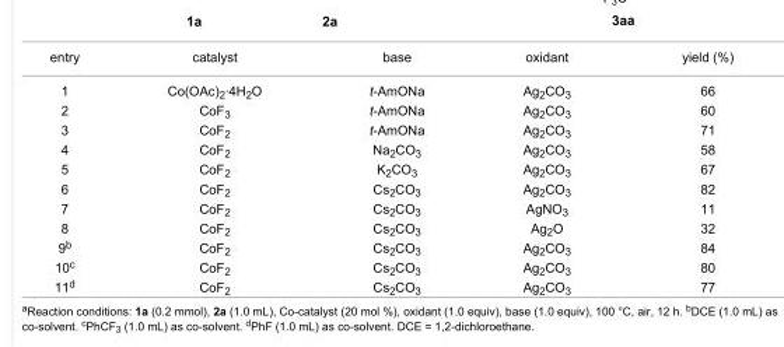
<table><tbody><tr><td>entry</td><td>catalyst</td><td>base</td><td>oxidant</td><td>yield (%)</td></tr><tr><td>1</td><td>Co(OAc)<sub>2</sub>·4H<sub>2</sub>O</td><td>t-AmONa</td><td>Ag<sub>2</sub>CO<sub>3</sub></td><td>66</td></tr><tr><td>2</td><td>CoF<sub>3</sub></td><td>t-AmONa</td><td>Ag<sub>2</sub>CO<sub>3</sub></td><td>60</td></tr><tr><td>3</td><td>CoF<sub>2</sub></td><td>t-AmONa</td><td>Ag<sub>2</sub>CO<sub>3</sub></td><td>71</td></tr><tr><td>4</td><td>CoF<sub>2</sub></td><td>Na<sub>2</sub>CO<sub>3</sub></td><td>Ag<sub>2</sub>CO<sub>3</sub></td><td>58</td></tr><tr><td>5</td><td>CoF<sub>2</sub></td><td>K<sub>2</sub>CO<sub>3</sub></td><td>Ag<sub>2</sub>CO<sub>3</sub></td><td>67</td></tr><tr><td>6</td><td>CoF<sub>2</sub></td><td>Cs<sub>2</sub>CO<sub>3</sub></td><td>Ag<sub>2</sub>CO<sub>3</sub></td><td>82</td></tr><tr><td>7</td><td>CoF<sub>2</sub></td><td>Cs<sub>2</sub>CO<sub>3</sub></td><td>AgNO<sub>3</sub></td><td>11</td></tr><tr><td>8</td><td>CoF<sub>2</sub></td><td>Cs<sub>2</sub>CO<sub>3</sub></td><td>Ag<sub>2</sub>O</td><td>32</td></tr><tr><td>9<sup>b</sup></td><td>CoF<sub>2</sub></td><td>Cs<sub>2</sub>CO<sub>3</sub></td><td>Ag<sub>2</sub>CO<sub>3</sub></td><td>84</td></tr><tr><td>10<sup>c</sup></td><td>CoF<sub>2</sub></td><td>Cs<sub>2</sub>CO<sub>3</sub></td><td>Ag<sub>2</sub>CO<sub>3</sub></td><td>80</td></tr><tr><td>11<sup>d</sup></td><td>CoF<sub>2</sub></td><td>Cs<sub>2</sub>CO<sub>3</sub></td><td>Ag<sub>2</sub>CO<sub>3</sub></td><td>77</td></tr></tbody></table>